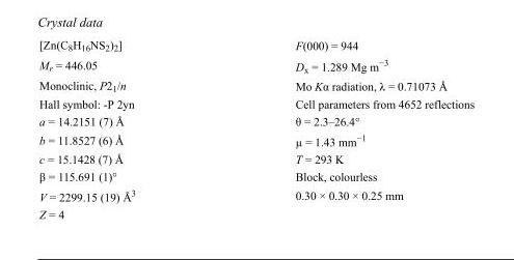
<table><tbody><tr><td>[Zn(C<sub>8</sub>H<sub>16</sub>NS<sub>2</sub>)<sub>2</sub>]</td><td>F(000) = 944</td></tr><tr><td>M<sub>r</sub> = 446.05</td><td>D<sub>x</sub> = 1.289 Mg m<sup>−3</sup></td></tr><tr><td>Monoclinic, P2<sub>1</sub>/n</td><td>Mo Kα radiation, λ = 0.71073 Å</td></tr><tr><td>Hall symbol: -P 2yn</td><td>Cell parameters from 4652 reflections</td></tr><tr><td>a = 14.2151 (7) Å</td><td>θ = 2.3–26.4°</td></tr><tr><td>b = 11.8527 (6) Å</td><td>µ = 1.43 mm<sup>−1</sup></td></tr><tr><td>c = 15.1428 (7) Å</td><td>T = 293 K</td></tr><tr><td>β = 115.691 (1)°</td><td>Block, colourless</td></tr><tr><td>V = 2299.15 (19) Å<sup>3</sup></td><td>0.30 × 0.30 × 0.25 mm</td></tr><tr><td>Z = 4</td><td></td></tr></tbody></table>